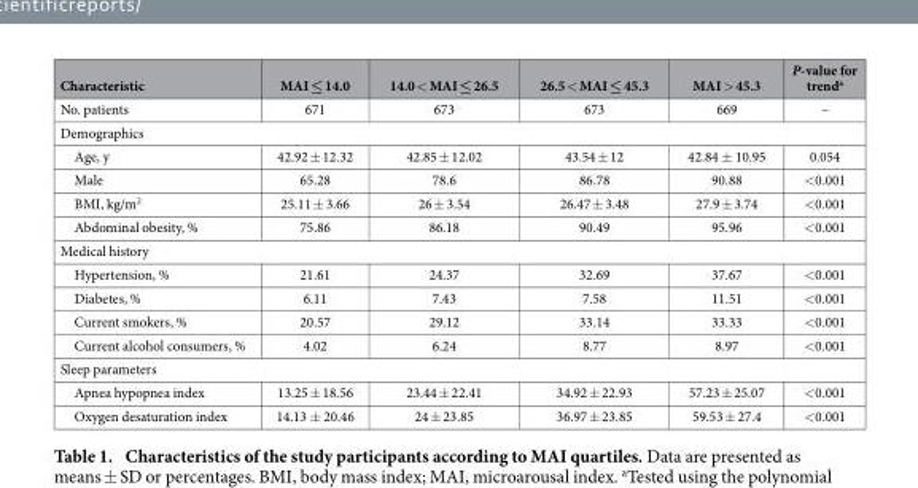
<table><thead><tr><td>Characteristic</td><td>MAI ≤ 14.0</td><td>14.0 &lt; MAI ≤ 26.5</td><td>26.5 &lt; MAI ≤ 45.3</td><td>MAI &gt; 45.3</td><td>P-value for trend<sup>a</sup></td></tr></thead><tbody><tr><td>No. patients</td><td>671</td><td>673</td><td>673</td><td>669</td><td>–</td></tr><tr><td colspan="6">Demographics</td></tr><tr><td>Age, y</td><td>42.92 ± 12.32</td><td>42.85 ± 12.02</td><td>43.54 ± 12</td><td>42.84 ± 10.95</td><td>0.054</td></tr><tr><td>Male</td><td>65.28</td><td>78.6</td><td>86.78</td><td>90.88</td><td>&lt; 0.001</td></tr><tr><td>BMI, kg/m<sup>2</sup></td><td>25.11 ± 3.66</td><td>26 ± 3.54</td><td>26.47 ± 3.48</td><td>27.9 ± 3.74</td><td>&lt; 0.001</td></tr><tr><td>Abdominal obesity, %</td><td>75.86</td><td>86.18</td><td>90.49</td><td>95.96</td><td>&lt; 0.001</td></tr><tr><td colspan="6">Medical history</td></tr><tr><td>Hypertension, %</td><td>21.61</td><td>24.37</td><td>32.69</td><td>37.67</td><td>&lt; 0.001</td></tr><tr><td>Diabetes, %</td><td>6.11</td><td>7.43</td><td>7.58</td><td>11.51</td><td>&lt; 0.001</td></tr><tr><td>Current smokers, %</td><td>20.57</td><td>29.12</td><td>33.14</td><td>33.33</td><td>&lt; 0.001</td></tr><tr><td>Current alcohol consumers, %</td><td>4.02</td><td>6.24</td><td>8.77</td><td>8.97</td><td>&lt; 0.001</td></tr><tr><td colspan="6">Sleep parameters</td></tr><tr><td>Apnea hypopnea index</td><td>13.25 ± 18.56</td><td>23.44 ± 22.41</td><td>34.92 ± 22.93</td><td>57.23 ± 25.07</td><td>&lt; 0.001</td></tr><tr><td>Oxygen desaturation index</td><td>14.13 ± 20.46</td><td>24 ± 23.85</td><td>36.97 ± 23.85</td><td>59.53 ± 27.4</td><td>&lt; 0.001</td></tr></tbody></table>